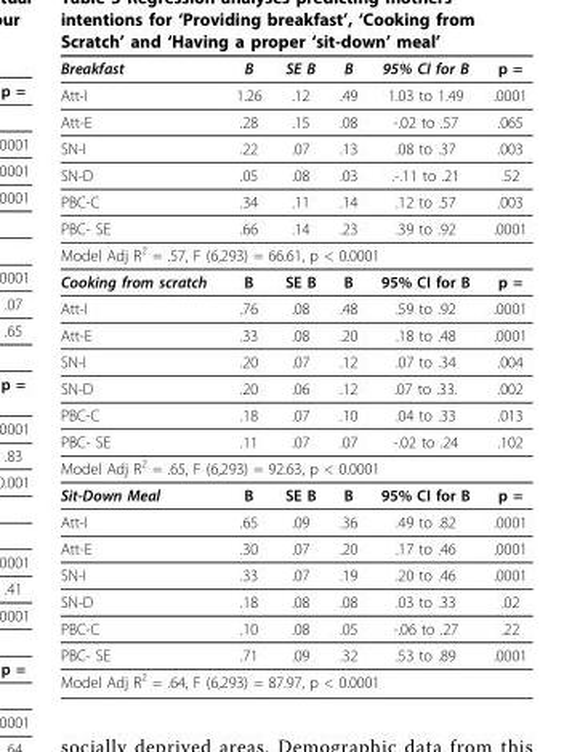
<table><thead><tr><td>Breakfast</td><td>B</td><td>SE B</td><td>Β</td><td>95% CI for B</td><td>p =</td></tr></thead><tbody><tr><td>Att-I</td><td>1.26</td><td>.12</td><td>.49</td><td>1.03 to 1.49</td><td>.0001</td></tr><tr><td>Att-E</td><td>.28</td><td>.15</td><td>.08</td><td>-.02 to .57</td><td>.065</td></tr><tr><td>SN-I</td><td>.22</td><td>.07</td><td>.13</td><td>.08 to .37</td><td>.003</td></tr><tr><td>SN-D</td><td>.05</td><td>.08</td><td>.03</td><td>.-.11 to .21</td><td>.52</td></tr><tr><td>PBC-C</td><td>.34</td><td>.11</td><td>.14</td><td>.12 to .57</td><td>.003</td></tr><tr><td>PBC- SE</td><td>.66</td><td>.14</td><td>.23</td><td>.39 to .92</td><td>.0001</td></tr><tr><td colspan="6">Model Adj R<sup>2</sup> = .57, F (6,293) = 66.61, p &lt; 0.0001</td></tr><tr><td>Cooking from scratch</td><td>B</td><td>SE B</td><td>Β</td><td>95% CI for B</td><td>p =</td></tr><tr><td>Att-I</td><td>.76</td><td>.08</td><td>.48</td><td>.59 to .92</td><td>.0001</td></tr><tr><td>Att-E</td><td>.33</td><td>.08</td><td>.20</td><td>.18 to .48</td><td>.0001</td></tr><tr><td>SN-I</td><td>.20</td><td>.07</td><td>.12</td><td>.07 to .34</td><td>.004</td></tr><tr><td>SN-D</td><td>.20</td><td>.06</td><td>.12</td><td>.07 to .33.</td><td>.002</td></tr><tr><td>PBC-C</td><td>.18</td><td>.07</td><td>.10</td><td>.04 to .33</td><td>.013</td></tr><tr><td>PBC- SE</td><td>.11</td><td>.07</td><td>.07</td><td>-.02 to .24</td><td>.102</td></tr><tr><td colspan="6">Model Adj R<sup>2</sup> = .65, F (6,293) = 92.63, p &lt; 0.0001</td></tr><tr><td>Sit-Down Meal</td><td>B</td><td>SE B</td><td>Β</td><td>95% CI for B</td><td>p =</td></tr><tr><td>Att-I</td><td>.65</td><td>.09</td><td>.36</td><td>.49 to .82</td><td>.0001</td></tr><tr><td>Att-E</td><td>.30</td><td>.07</td><td>.20</td><td>.17 to .46</td><td>.0001</td></tr><tr><td>SN-I</td><td>.33</td><td>.07</td><td>.19</td><td>.20 to .46</td><td>.0001</td></tr><tr><td>SN-D</td><td>.18</td><td>.08</td><td>.08</td><td>.03 to .33</td><td>.02</td></tr><tr><td>PBC-C</td><td>.10</td><td>.08</td><td>.05</td><td>-.06 to .27</td><td>.22</td></tr><tr><td>PBC- SE</td><td>.71</td><td>.09</td><td>.32</td><td>.53 to .89</td><td>.0001</td></tr><tr><td colspan="6">Model Adj R<sup>2</sup> = .64, F (6,293) = 87.97, p &lt; 0.0001</td></tr></tbody></table>